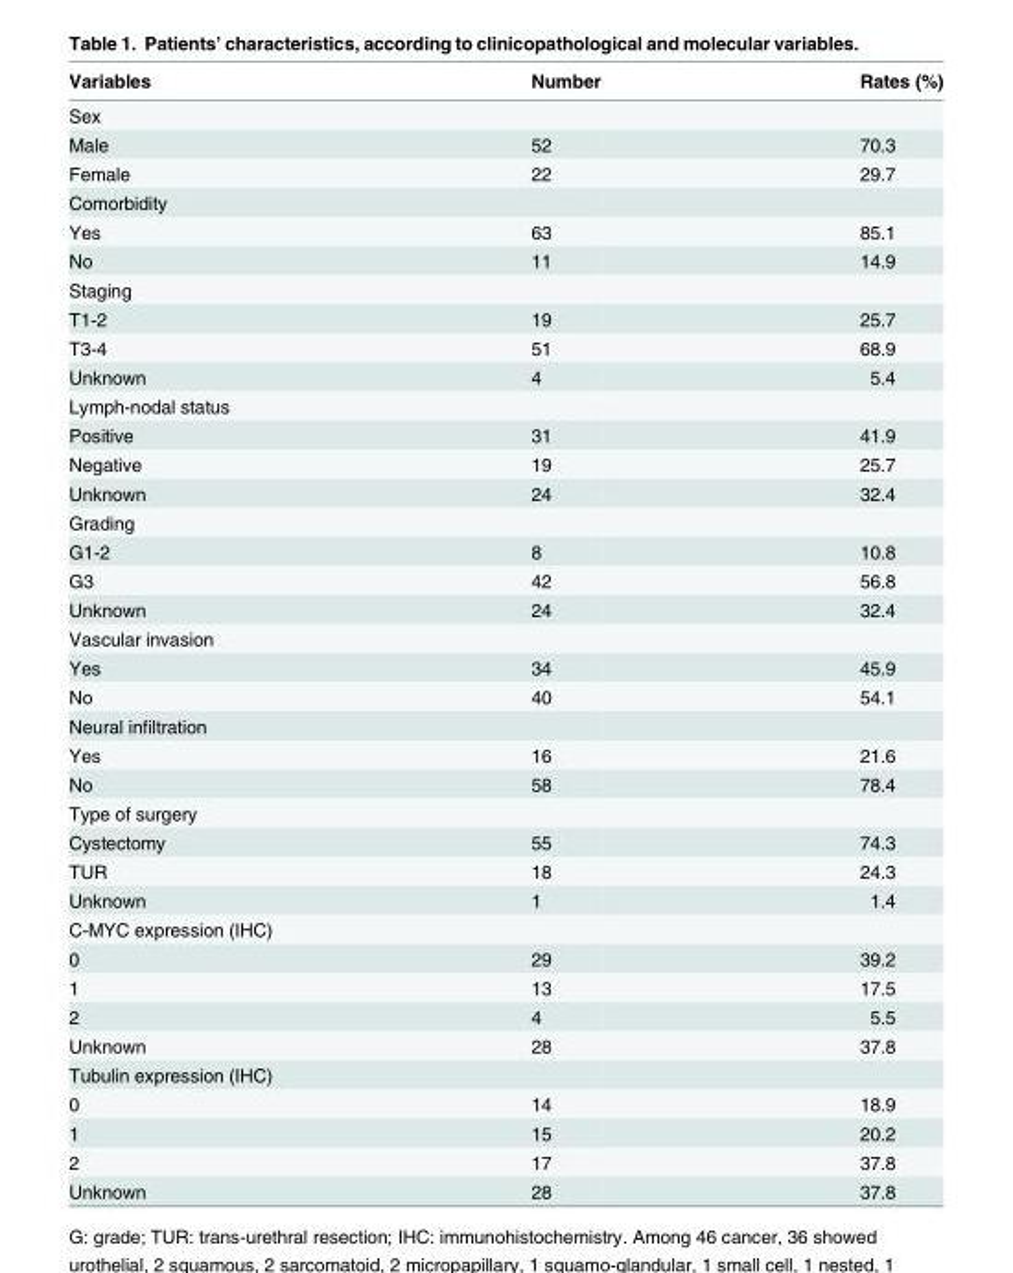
<table><thead><tr><td>Variables</td><td>Number</td><td>Rates (%)</td></tr></thead><tbody><tr><td colspan="3">Sex</td></tr><tr><td>Male</td><td>52</td><td>70.3</td></tr><tr><td>Female</td><td>22</td><td>29.7</td></tr><tr><td colspan="3">Comorbidity</td></tr><tr><td>Yes</td><td>63</td><td>85.1</td></tr><tr><td>No</td><td>11</td><td>14.9</td></tr><tr><td colspan="3">Staging</td></tr><tr><td>T1-2</td><td>19</td><td>25.7</td></tr><tr><td>T3-4</td><td>51</td><td>68.9</td></tr><tr><td>Unknown</td><td>4</td><td>5.4</td></tr><tr><td colspan="3">Lymph-nodal status</td></tr><tr><td>Positive</td><td>31</td><td>41.9</td></tr><tr><td>Negative</td><td>19</td><td>25.7</td></tr><tr><td>Unknown</td><td>24</td><td>32.4</td></tr><tr><td colspan="3">Grading</td></tr><tr><td>G1-2</td><td>8</td><td>10.8</td></tr><tr><td>G3</td><td>42</td><td>56.8</td></tr><tr><td>Unknown</td><td>24</td><td>32.4</td></tr><tr><td colspan="3">Vascular invasion</td></tr><tr><td>Yes</td><td>34</td><td>45.9</td></tr><tr><td>No</td><td>40</td><td>54.1</td></tr><tr><td colspan="3">Neural infiltration</td></tr><tr><td>Yes</td><td>16</td><td>21.6</td></tr><tr><td>No</td><td>58</td><td>78.4</td></tr><tr><td colspan="3">Type of surgery</td></tr><tr><td>Cystectomy</td><td>55</td><td>74.3</td></tr><tr><td>TUR</td><td>18</td><td>24.3</td></tr><tr><td>Unknown</td><td>1</td><td>1.4</td></tr><tr><td colspan="3">C-MYC expression (IHC)</td></tr><tr><td>0</td><td>29</td><td>39.2</td></tr><tr><td>1</td><td>13</td><td>17.5</td></tr><tr><td>2</td><td>4</td><td>5.5</td></tr><tr><td>Unknown</td><td>28</td><td>37.8</td></tr><tr><td colspan="3">Tubulin expression (IHC)</td></tr><tr><td>0</td><td>14</td><td>18.9</td></tr><tr><td>1</td><td>15</td><td>20.2</td></tr><tr><td>2</td><td>17</td><td>37.8</td></tr><tr><td>Unknown</td><td>28</td><td>37.8</td></tr></tbody></table>